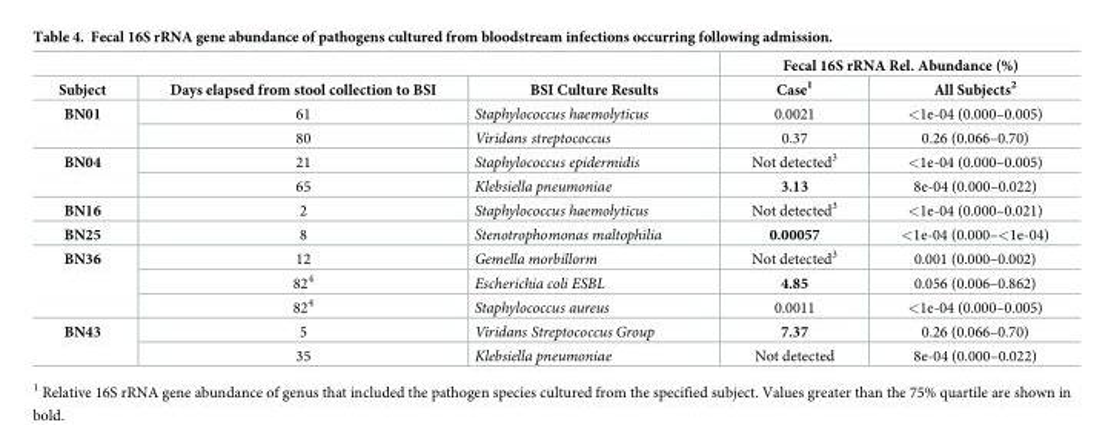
<table><thead><tr><td rowspan="2">Subject</td><td rowspan="2">Days elapsed from stool collection to BSI</td><td rowspan="2">BSI Culture Results</td><td colspan="2">Fecal 16S rRNA Rel. Abundance (%)</td></tr><tr><td>Case<sup>1</sup></td><td>All Subjects<sup>2</sup></td></tr></thead><tbody><tr><td rowspan="2">BN01</td><td>61</td><td>Staphylococcus haemolyticus</td><td>0.0021</td><td>&lt;1e-04 (0.000–0.005)</td></tr><tr><td>80</td><td>Viridans streptococcus</td><td>0.37</td><td>0.26 (0.066–0.70)</td></tr><tr><td rowspan="2">BN04</td><td>21</td><td>Staphylococcus epidermidis</td><td>Not detected<sup>3</sup></td><td>&lt;1e-04 (0.000–0.005)</td></tr><tr><td>65</td><td>Klebsiella pneumoniae</td><td>3.13</td><td>8e-04 (0.000–0.022)</td></tr><tr><td>BN16</td><td>2</td><td>Staphylococcus haemolyticus</td><td>Not detected<sup>3</sup></td><td>&lt;1e-04 (0.000–0.021)</td></tr><tr><td>BN25</td><td>8</td><td>Stenotrophomonas maltophilia</td><td>0.00057</td><td>&lt;1e-04 (0.000–&lt;1e-04)</td></tr><tr><td rowspan="3">BN36</td><td>12</td><td>Gemella morbillorm</td><td>Not detected<sup>3</sup></td><td>0.001 (0.000–0.002)</td></tr><tr><td>82<sup>4</sup></td><td>Escherichia coli ESBL</td><td>4.85</td><td>0.056 (0.006–0.862)</td></tr><tr><td>82<sup>4</sup></td><td>Staphylococcus aureus</td><td>0.0011</td><td>&lt;1e-04 (0.000–0.005)</td></tr><tr><td rowspan="2">BN43</td><td>5</td><td>Viridans Streptococcus Group</td><td>7.37</td><td>0.26 (0.066–0.70)</td></tr><tr><td>35</td><td>Klebsiella pneumoniae</td><td>Not detected</td><td>8e-04 (0.000–0.022)</td></tr></tbody></table>